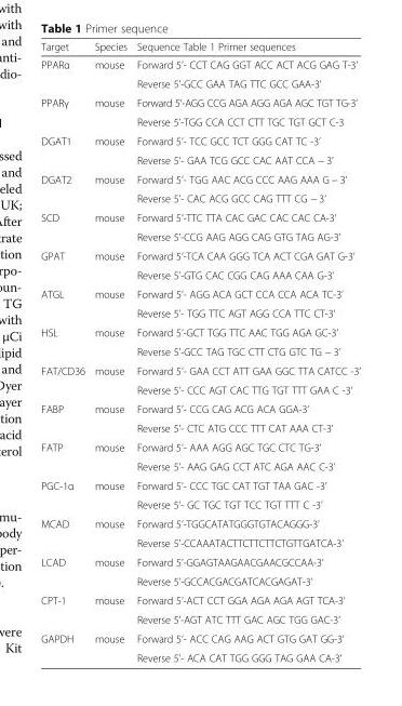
<table><thead><tr><td>Target</td><td>Species</td><td>Sequence Table 1 Primer sequences</td></tr></thead><tbody><tr><td rowspan="2">PPARα</td><td rowspan="2">mouse</td><td>Forward 5’- CCT CAG GGT ACC ACT ACG GAG T-3’</td></tr><tr><td>Reverse 5’-GCC GAA TAG TTC GCC GAA-3’</td></tr><tr><td rowspan="2">PPARγ</td><td rowspan="2">mouse</td><td>Forward 5’-AGG CCG AGA AGG AGA AGC TGT TG-3’</td></tr><tr><td>Reverse 5’-TGG CCA CCT CTT TGC TGT GCT C-3</td></tr><tr><td rowspan="2">DGAT1</td><td rowspan="2">mouse</td><td>Forward 5’- TCC GCC TCT GGG CAT TC -3’</td></tr><tr><td>Reverse 5’- GAA TCG GCC CAC AAT CCA − 3’</td></tr><tr><td rowspan="2">DGAT2</td><td rowspan="2">mouse</td><td>Forward 5’- TGG AAC ACG CCC AAG AAA G − 3’</td></tr><tr><td>Reverse 5’- CAC ACG GCC CAG TTT CG − 3’</td></tr><tr><td rowspan="2">SCD</td><td rowspan="2">mouse</td><td>Forward 5’-TTC TTA CAC GAC CAC CAC CA-3’</td></tr><tr><td>Reverse 5’-CCG AAG AGG CAG GTG TAG AG-3’</td></tr><tr><td rowspan="2">GPAT</td><td rowspan="2">mouse</td><td>Forward 5’-TCA CAA GGG TCA ACT CGA GAT G-3’</td></tr><tr><td>Reverse 5’-GTG CAC CGG CAG AAA CAA G-3’</td></tr><tr><td rowspan="2">ATGL</td><td rowspan="2">mouse</td><td>Forward 5’- AGG ACA GCT CCA CCA ACA TC-3’</td></tr><tr><td>Reverse 5’- TGG TTC AGT AGG CCA TTC CT-3’</td></tr><tr><td rowspan="2">HSL</td><td rowspan="2">mouse</td><td>Forward 5’-GCT TGG TTC AAC TGG AGA GC-3’</td></tr><tr><td>Reverse 5’-GCC TAG TGC CTT CTG GTC TG − 3’</td></tr><tr><td rowspan="2">FAT/CD36</td><td rowspan="2">mouse</td><td>Forward 5’- GAA CCT ATT GAA GGC TTA CATCC -3’</td></tr><tr><td>Reverse 5’- CCC AGT CAC TTG TGT TTT GAA C -3’</td></tr><tr><td rowspan="2">FABP</td><td rowspan="2">mouse</td><td>Forward 5’- CCG CAG ACG ACA GGA-3’</td></tr><tr><td>Reverse 5’- CTC ATG CCC TTT CAT AAA CT-3’</td></tr><tr><td rowspan="2">FATP</td><td rowspan="2">mouse</td><td>Forward 5’- AAA AGG AGC TGC CTC TG-3’</td></tr><tr><td>Reverse 5’- AAG GAG CCT ATC AGA AAC C-3’</td></tr><tr><td rowspan="2">PGC-1α</td><td rowspan="2">mouse</td><td>Forward 5’- CCC TGC CAT TGT TAA GAC -3’</td></tr><tr><td>Reverse 5’- GC TGC TGT TCC TGT TTT C -3’</td></tr><tr><td rowspan="2">MCAD</td><td rowspan="2">mouse</td><td>Forward 5’-TGGCATATGGGTGTACAGGG-3’</td></tr><tr><td>Reverse 5’-CCAAATACTTCTTCTTCTGTTGATCA-3’</td></tr><tr><td rowspan="2">LCAD</td><td rowspan="2">mouse</td><td>Forward 5’-GGAGTAAGAACGAACGCCAA-3’</td></tr><tr><td>Reverse 5’-GCCACGACGATCACGAGAT-3’</td></tr><tr><td rowspan="2">CPT-1</td><td rowspan="2">mouse</td><td>Forward 5’-ACT CCT GGA AGA AGA AGT TCA-3’</td></tr><tr><td>Reverse 5’-AGT ATC TTT GAC AGC TGG GAC-3’</td></tr><tr><td rowspan="2">GAPDH</td><td rowspan="2">mouse</td><td>Forward 5’- ACC CAG AAG ACT GTG GAT GG-3’</td></tr><tr><td>Reverse 5’- ACA CAT TGG GGG TAG GAA CA-3’</td></tr></tbody></table>